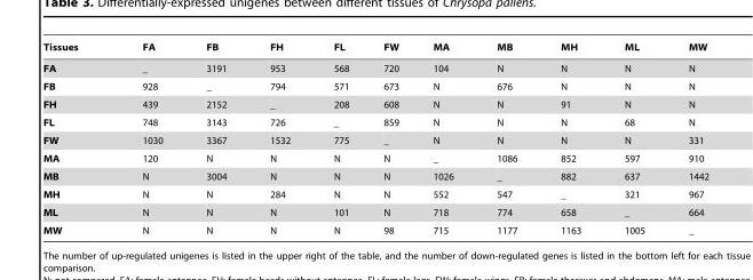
<table><thead><tr><td>Tissues</td><td>FA</td><td>FB</td><td>FH</td><td>FL</td><td>FW</td><td>MA</td><td>MB</td><td>MH</td><td>ML</td><td>MW</td></tr></thead><tbody><tr><td>FA</td><td>―</td><td>3191</td><td>953</td><td>568</td><td>720</td><td>104</td><td>N</td><td>N</td><td>N</td><td>N</td></tr><tr><td>FB</td><td>928</td><td>―</td><td>794</td><td>571</td><td>673</td><td>N</td><td>676</td><td>N</td><td>N</td><td>N</td></tr><tr><td>FH</td><td>439</td><td>2152</td><td>―</td><td>208</td><td>608</td><td>N</td><td>N</td><td>91</td><td>N</td><td>N</td></tr><tr><td>FL</td><td>748</td><td>3143</td><td>726</td><td>―</td><td>859</td><td>N</td><td>N</td><td>N</td><td>68</td><td>N</td></tr><tr><td>FW</td><td>1030</td><td>3367</td><td>1532</td><td>775</td><td>―</td><td>N</td><td>N</td><td>N</td><td>N</td><td>331</td></tr><tr><td>MA</td><td>120</td><td>N</td><td>N</td><td>N</td><td>N</td><td>―</td><td>1086</td><td>852</td><td>597</td><td>910</td></tr><tr><td>MB</td><td>N</td><td>3004</td><td>N</td><td>N</td><td>N</td><td>1026</td><td>―</td><td>882</td><td>637</td><td>1442</td></tr><tr><td>MH</td><td>N</td><td>N</td><td>284</td><td>N</td><td>N</td><td>552</td><td>547</td><td>―</td><td>321</td><td>967</td></tr><tr><td>ML</td><td>N</td><td>N</td><td>N</td><td>101</td><td>N</td><td>718</td><td>774</td><td>658</td><td>―</td><td>664</td></tr><tr><td>MW</td><td>N</td><td>N</td><td>N</td><td>N</td><td>98</td><td>715</td><td>1177</td><td>1163</td><td>1005</td><td>―</td></tr></tbody></table>